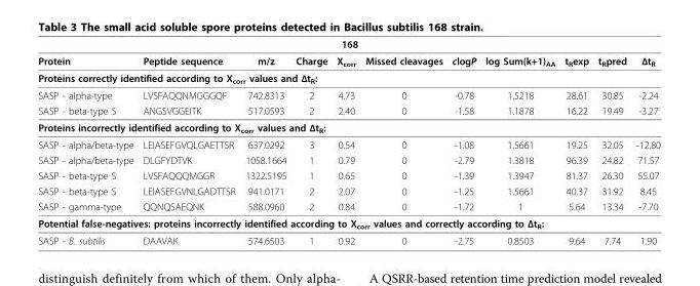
<table><thead><tr><td colspan="11">168</td></tr><tr><td>Protein</td><td>Peptide sequence</td><td>m/z</td><td>Charge</td><td>X<sub>corr</sub></td><td>Missed cleavages</td><td>clogP</td><td>log Sum(k+1)<sub>AA</sub></td><td>t<sub>R</sub>exp</td><td>t<sub>R</sub>pred</td><td>Δt<sub>R</sub></td></tr></thead><tbody><tr><td colspan="11">Proteins correctly identified according to X<sub>corr</sub> values and Δt<sub>R</sub>:</td></tr><tr><td>SASP - alpha-type</td><td>LVSFAQQNMGGGQF</td><td>742.8313</td><td>2</td><td>4.73</td><td>0</td><td>-0.78</td><td>1.5218</td><td>28.61</td><td>30.85</td><td>-2.24</td></tr><tr><td>SASP - beta-type S</td><td>ANGSVGGEITK</td><td>517.0593</td><td>2</td><td>2.40</td><td>0</td><td>-1.58</td><td>1.1878</td><td>16.22</td><td>19.49</td><td>-3.27</td></tr><tr><td colspan="11">Proteins incorrectly identified according to X<sub>corr</sub> values and Δt<sub>R</sub>:</td></tr><tr><td>SASP - alpha/beta-type</td><td>LEIASEFGVQLGAETTSR</td><td>637.0292</td><td>3</td><td>0.54</td><td>0</td><td>-1.08</td><td>1.5661</td><td>19.25</td><td>32.05</td><td>-12.80</td></tr><tr><td>SASP - alpha/beta-type</td><td>DLGFYDTVK</td><td>1058.1664</td><td>1</td><td>0.79</td><td>0</td><td>-2.79</td><td>1.3818</td><td>96.39</td><td>24.82</td><td>71.57</td></tr><tr><td>SASP - beta-type S</td><td>LVSFAQQQMGGR</td><td>1322.5195</td><td>1</td><td>0.65</td><td>0</td><td>-1.39</td><td>1.3947</td><td>81.37</td><td>26.30</td><td>55.07</td></tr><tr><td>SASP - beta-type S</td><td>LEIASEFGVNLGADTTSR</td><td>941.0171</td><td>2</td><td>2.07</td><td>0</td><td>-1.25</td><td>1.5661</td><td>40.37</td><td>31.92</td><td>8.45</td></tr><tr><td>SASP - gamma-type</td><td>QQNQSAEQNK</td><td>588.0960</td><td>2</td><td>0.84</td><td>0</td><td>-1.72</td><td>1</td><td>5.64</td><td>13.34</td><td>-7.70</td></tr><tr><td colspan="11">Potential false-negatives: proteins incorrectly identified according to X<sub>corr</sub> values and correctly according to Δt<sub>R</sub>:</td></tr><tr><td>SASP - B. subtilis</td><td>DAAVAK</td><td>574.6503</td><td>1</td><td>0.92</td><td>0</td><td>-2.75</td><td>0.8503</td><td>9.64</td><td>7.74</td><td>1.90</td></tr></tbody></table>